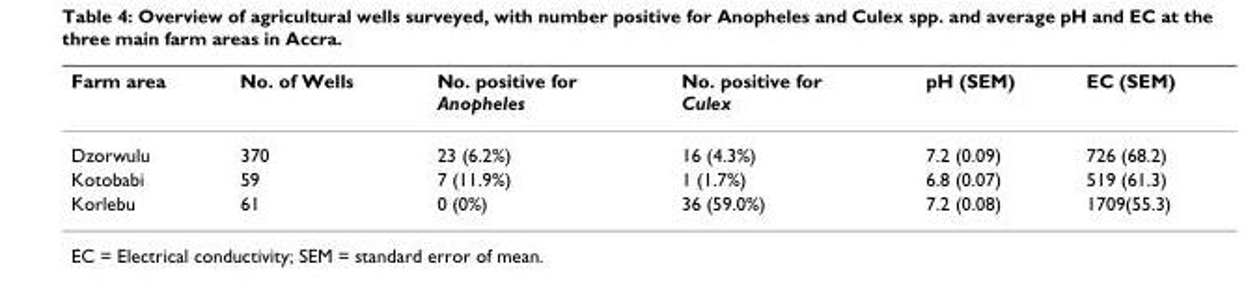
<table><thead><tr><td>Farm area</td><td>No. of Wells</td><td>No. positive for Anopheles</td><td>No. positive for Culex</td><td>pH (SEM)</td><td>EC (SEM)</td></tr></thead><tbody><tr><td>Dzorwulu</td><td>370</td><td>23 (6.2%)</td><td>16 (4.3%)</td><td>7.2 (0.09)</td><td>726 (68.2)</td></tr><tr><td>Kotobabi</td><td>59</td><td>7 (11.9%)</td><td>1 (1.7%)</td><td>6.8 (0.07)</td><td>519 (61.3)</td></tr><tr><td>Korlebu</td><td>61</td><td>0 (0%)</td><td>36 (59.0%)</td><td>7.2 (0.08)</td><td>1709(55.3)</td></tr></tbody></table>